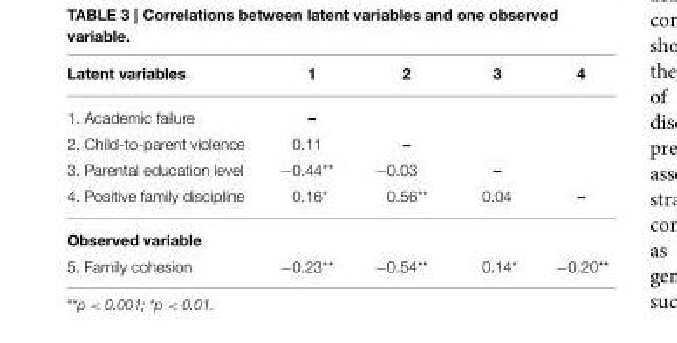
<table><thead><tr><td>Latent variables</td><td>1</td><td>2</td><td>3</td><td>4</td></tr></thead><tbody><tr><td>1. Academic failure</td><td>–</td><td></td><td></td><td></td></tr><tr><td>2. Child-to-parent violence</td><td>0.11</td><td>–</td><td></td><td></td></tr><tr><td>3. Parental education level</td><td>−0.44**</td><td>−0.03</td><td>–</td><td></td></tr><tr><td>4. Positive family discipline</td><td>0.16*</td><td>0.56**</td><td>0.04</td><td>–</td></tr><tr><td colspan="5">Observed variable</td></tr><tr><td>5. Family cohesion</td><td>−0.23**</td><td>−0.54**</td><td>0.14*</td><td>−0.20**</td></tr></tbody></table>